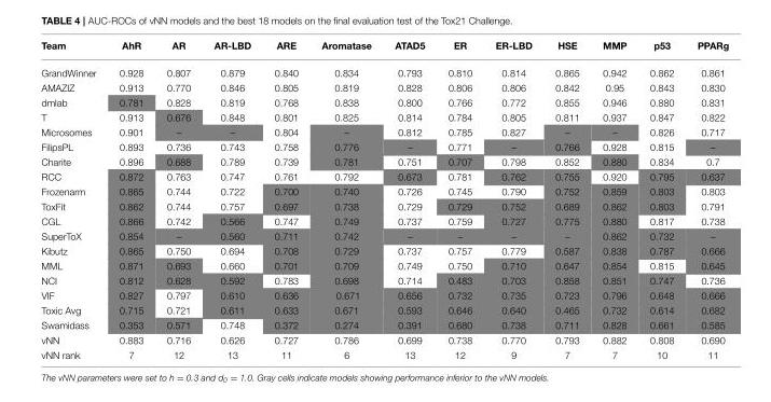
<table><thead><tr><td>Team</td><td>AhR</td><td>AR</td><td>AR-LBD</td><td>ARE</td><td>Aromatase</td><td>ATAD5</td><td>ER</td><td>ER-LBD</td><td>HSE</td><td>MMP</td><td>p53</td><td>PPARg</td></tr></thead><tbody><tr><td>GrandWinner</td><td>0.928</td><td>0.807</td><td>0.879</td><td>0.840</td><td>0.834</td><td>0.793</td><td>0.810</td><td>0.814</td><td>0.865</td><td>0.942</td><td>0.862</td><td>0.861</td></tr><tr><td>AMAZIZ</td><td>0.913</td><td>0.770</td><td>0.846</td><td>0.805</td><td>0.819</td><td>0.828</td><td>0.806</td><td>0.806</td><td>0.842</td><td>0.95</td><td>0.843</td><td>0.830</td></tr><tr><td>dmlab</td><td>0.781</td><td>0.828</td><td>0.819</td><td>0.768</td><td>0.838</td><td>0.800</td><td>0.766</td><td>0.772</td><td>0.855</td><td>0.946</td><td>0.880</td><td>0.831</td></tr><tr><td>T</td><td>0.913</td><td>0.676</td><td>0.848</td><td>0.801</td><td>0.825</td><td>0.814</td><td>0.784</td><td>0.805</td><td>0.811</td><td>0.937</td><td>0.847</td><td>0.822</td></tr><tr><td>Microsomes</td><td>0.901</td><td>–</td><td>–</td><td>0.804</td><td>–</td><td>0.812</td><td>0.785</td><td>0.827</td><td>–</td><td>–</td><td>0.826</td><td>0.717</td></tr><tr><td>FilipsPL</td><td>0.893</td><td>0.736</td><td>0.743</td><td>0.758</td><td>0.776</td><td>–</td><td>0.771</td><td>–</td><td>0.766</td><td>0.928</td><td>0.815</td><td>–</td></tr><tr><td>Charite</td><td>0.896</td><td>0.688</td><td>0.789</td><td>0.739</td><td>0.781</td><td>0.751</td><td>0.707</td><td>0.798</td><td>0.852</td><td>0.880</td><td>0.834</td><td>0.7</td></tr><tr><td>RCC</td><td>0.872</td><td>0.763</td><td>0.747</td><td>0.761</td><td>0.792</td><td>0.673</td><td>0.781</td><td>0.762</td><td>0.755</td><td>0.920</td><td>0.795</td><td>0.637</td></tr><tr><td>Frozenarm</td><td>0.865</td><td>0.744</td><td>0.722</td><td>0.700</td><td>0.740</td><td>0.726</td><td>0.745</td><td>0.790</td><td>0.752</td><td>0.859</td><td>0.803</td><td>0.803</td></tr><tr><td>ToxFit</td><td>0.862</td><td>0.744</td><td>0.757</td><td>0.697</td><td>0.738</td><td>0.729</td><td>0.729</td><td>0.752</td><td>0.689</td><td>0.862</td><td>0.803</td><td>0.791</td></tr><tr><td>CGL</td><td>0.866</td><td>0.742</td><td>0.566</td><td>0.747</td><td>0.749</td><td>0.737</td><td>0.759</td><td>0.727</td><td>0.775</td><td>0.880</td><td>0.817</td><td>0.738</td></tr><tr><td>SuperToX</td><td>0.854</td><td>–</td><td>0.560</td><td>0.711</td><td>0.742</td><td>–</td><td>–</td><td>–</td><td>–</td><td>0.862</td><td>0.732</td><td>–</td></tr><tr><td>Kibutz</td><td>0.865</td><td>0.750</td><td>0.694</td><td>0.708</td><td>0.729</td><td>0.737</td><td>0.757</td><td>0.779</td><td>0.587</td><td>0.838</td><td>0.787</td><td>0.666</td></tr><tr><td>MML</td><td>0.871</td><td>0.693</td><td>0.660</td><td>0.701</td><td>0.709</td><td>0.749</td><td>0.750</td><td>0.710</td><td>0.647</td><td>0.854</td><td>0.815</td><td>0.645</td></tr><tr><td>NCI</td><td>0.812</td><td>0.628</td><td>0.592</td><td>0.783</td><td>0.698</td><td>0.714</td><td>0.483</td><td>0.703</td><td>0.858</td><td>0.851</td><td>0.747</td><td>0.736</td></tr><tr><td>VIF</td><td>0.827</td><td>0.797</td><td>0.610</td><td>0.636</td><td>0.671</td><td>0.656</td><td>0.732</td><td>0.735</td><td>0.723</td><td>0.796</td><td>0.648</td><td>0.666</td></tr><tr><td>Toxic Avg</td><td>0.715</td><td>0.721</td><td>0.611</td><td>0.633</td><td>0.671</td><td>0.593</td><td>0.646</td><td>0.640</td><td>0.465</td><td>0.732</td><td>0.614</td><td>0.682</td></tr><tr><td>Swamidass</td><td>0.353</td><td>0.571</td><td>0.748</td><td>0.372</td><td>0.274</td><td>0.391</td><td>0.680</td><td>0.738</td><td>0.711</td><td>0.828</td><td>0.661</td><td>0.585</td></tr><tr><td>vNN</td><td>0.883</td><td>0.716</td><td>0.626</td><td>0.727</td><td>0.786</td><td>0.699</td><td>0.738</td><td>0.770</td><td>0.793</td><td>0.882</td><td>0.808</td><td>0.690</td></tr><tr><td>vNN rank</td><td>7</td><td>12</td><td>13</td><td>11</td><td>6</td><td>13</td><td>12</td><td>9</td><td>7</td><td>7</td><td>10</td><td>11</td></tr></tbody></table>